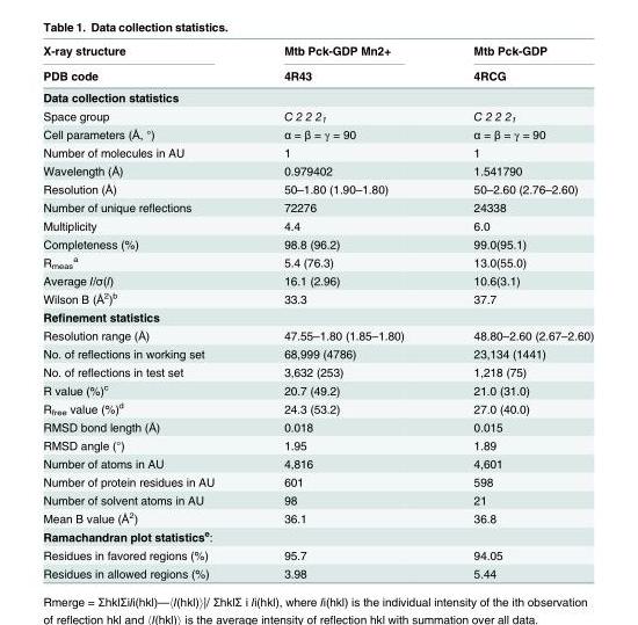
<table><thead><tr><td rowspan="2">X-ray structure PDB code</td><td rowspan="2">Mtb Pck-GDP Mn2+ 4R43</td><td rowspan="2">Mtb Pck-GDP 4RCG</td></tr><tr></tr></thead><tbody><tr><td colspan="3">Data collection statistics</td></tr><tr><td>Space group</td><td>C 2 2 2<sub>1</sub></td><td>C 2 2 2<sub>1</sub></td></tr><tr><td>Cell parameters (Å, °)</td><td>α = β = γ = 90</td><td>α = β = γ = 90</td></tr><tr><td>Number of molecules in AU</td><td>1</td><td>1</td></tr><tr><td>Wavelength (Å)</td><td>0.979402</td><td>1.541790</td></tr><tr><td>Resolution (Å)</td><td>50–1.80 (1.90–1.80)</td><td>50–2.60 (2.76–2.60)</td></tr><tr><td>Number of unique reflections</td><td>72276</td><td>24338</td></tr><tr><td>Multiplicity</td><td>4.4</td><td>6.0</td></tr><tr><td>Completeness (%)</td><td>98.8 (96.2)</td><td>99.0(95.1)</td></tr><tr><td>R<sub>meas</sub> <sup>a</sup></td><td>5.4 (76.3)</td><td>13.0(55.0)</td></tr><tr><td>Average I/σ(I)</td><td>16.1 (2.96)</td><td>10.6(3.1)</td></tr><tr><td>Wilson B (Å<sup>2</sup>)<sup>b</sup></td><td>33.3</td><td>37.7</td></tr><tr><td colspan="3">Refinement statistics</td></tr><tr><td>Resolution range (Å)</td><td>47.55–1.80 (1.85–1.80)</td><td>48.80–2.60 (2.67–2.60)</td></tr><tr><td>No. of reflections in working set</td><td>68,999 (4786)</td><td>23,134 (1441)</td></tr><tr><td>No. of reflections in test set</td><td>3,632 (253)</td><td>1,218 (75)</td></tr><tr><td>R value (%)<sup>c</sup></td><td>20.7 (49.2)</td><td>21.0 (31.0)</td></tr><tr><td>R<sub>free</sub> value (%)<sup>d</sup></td><td>24.3 (53.2)</td><td>27.0 (40.0)</td></tr><tr><td>RMSD bond length (Å)</td><td>0.018</td><td>0.015</td></tr><tr><td>RMSD angle (°)</td><td>1.95</td><td>1.89</td></tr><tr><td>Number of atoms in AU</td><td>4,816</td><td>4,601</td></tr><tr><td>Number of protein residues in AU</td><td>601</td><td>598</td></tr><tr><td>Number of solvent atoms in AU</td><td>98</td><td>21</td></tr><tr><td>Mean B value (Å<sup>2</sup>)</td><td>36.1</td><td>36.8</td></tr><tr><td colspan="3">Ramachandran plot statistics<sup>e</sup>:</td></tr><tr><td>Residues in favored regions (%)</td><td>95.7</td><td>94.05</td></tr><tr><td>Residues in allowed regions (%)</td><td>3.98</td><td>5.44</td></tr></tbody></table>